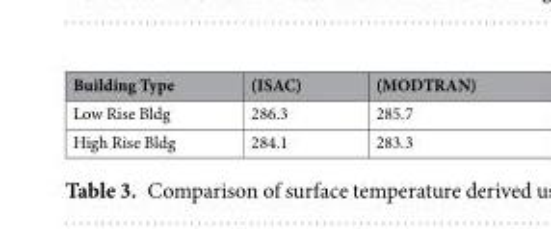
<table><thead><tr><td>Building Type</td><td>(ISAC)</td><td>(MODTRAN)</td></tr></thead><tbody><tr><td>Low Rise Bldg</td><td>286.3</td><td>285.7</td></tr><tr><td>High Rise Bldg</td><td>284.1</td><td>283.3</td></tr></tbody></table>